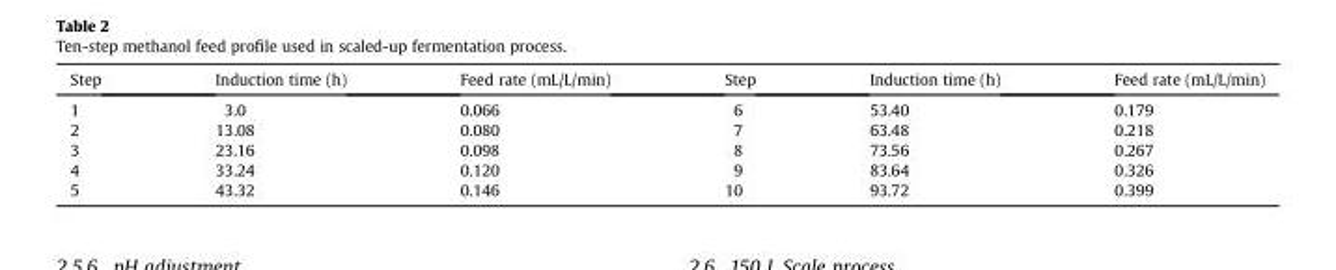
<table><thead><tr><td>Step</td><td>Induction time (h)</td><td>Feed rate (mL/L/min)</td><td>Step</td><td>Induction time (h)</td><td>Feed rate (mL/L/min)</td></tr></thead><tbody><tr><td>1</td><td>3.0</td><td>0.066</td><td>6</td><td>53.40</td><td>0.179</td></tr><tr><td>2</td><td>13.08</td><td>0.080</td><td>7</td><td>63.48</td><td>0.218</td></tr><tr><td>3</td><td>23.16</td><td>0.098</td><td>8</td><td>73.56</td><td>0.267</td></tr><tr><td>4</td><td>33.24</td><td>0.120</td><td>9</td><td>83.64</td><td>0.326</td></tr><tr><td>5</td><td>43.32</td><td>0.146</td><td>10</td><td>93.72</td><td>0.399</td></tr></tbody></table>